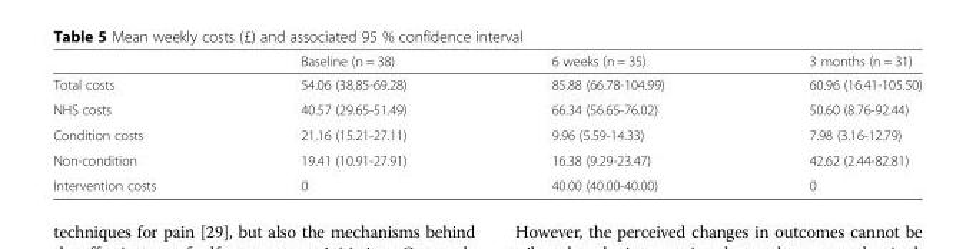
<table><thead><tr><td></td><td>Baseline (n = 38)</td><td>6 weeks (n = 35)</td><td>3 months (n = 31)</td></tr></thead><tbody><tr><td>Total costs</td><td>54.06 (38.85-69.28)</td><td>85.88 (66.78-104.99)</td><td>60.96 (16.41-105.50)</td></tr><tr><td>NHS costs</td><td>40.57 (29.65-51.49)</td><td>66.34 (56.65-76.02)</td><td>50.60 (8.76-92.44)</td></tr><tr><td>Condition costs</td><td>21.16 (15.21-27.11)</td><td>9.96 (5.59-14.33)</td><td>7.98 (3.16-12.79)</td></tr><tr><td>Non-condition</td><td>19.41 (10.91-27.91)</td><td>16.38 (9.29-23.47)</td><td>42.62 (2.44-82.81)</td></tr><tr><td>Intervention costs</td><td>0</td><td>40.00 (40.00-40.00)</td><td>0</td></tr></tbody></table>